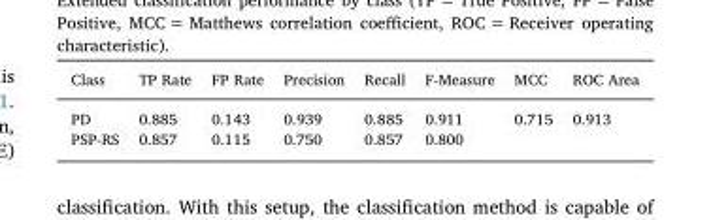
<table><thead><tr><td>Class</td><td>TP Rate</td><td>FP Rate</td><td>Precision</td><td>Recall</td><td>F-Measure</td><td>MCC</td><td>ROC Area</td></tr></thead><tbody><tr><td>PD</td><td>0.885</td><td>0.143</td><td>0.939</td><td>0.885</td><td>0.911</td><td rowspan="2">0.715</td><td rowspan="2">0.913</td></tr><tr><td>PSP-RS</td><td>0.857</td><td>0.115</td><td>0.750</td><td>0.857</td><td>0.800</td></tr></tbody></table>